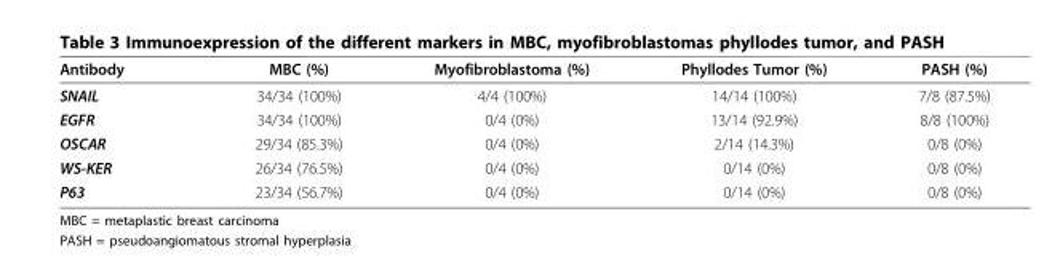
<table><thead><tr><td>Antibody</td><td>MBC (%)</td><td>Myofibroblastoma (%)</td><td>Phyllodes Tumor (%)</td><td>PASH (%)</td></tr></thead><tbody><tr><td>SNAIL</td><td>34/34 (100%)</td><td>4/4 (100%)</td><td>14/14 (100%)</td><td>7/8 (87.5%)</td></tr><tr><td>EGFR</td><td>34/34 (100%)</td><td>0/4 (0%)</td><td>13/14 (92.9%)</td><td>8/8 (100%)</td></tr><tr><td>OSCAR</td><td>29/34 (85.3%)</td><td>0/4 (0%)</td><td>2/14 (14.3%)</td><td>0/8 (0%)</td></tr><tr><td>WS-KER</td><td>26/34 (76.5%)</td><td>0/4 (0%)</td><td>0/14 (0%)</td><td>0/8 (0%)</td></tr><tr><td>P63</td><td>23/34 (56.7%)</td><td>0/4 (0%)</td><td>0/14 (0%)</td><td>0/8 (0%)</td></tr></tbody></table>